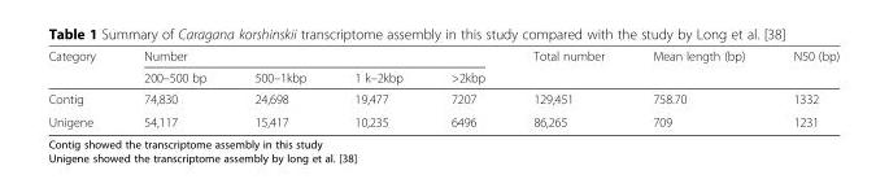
<table><thead><tr><td rowspan="2">Category</td><td colspan="4">Number</td><td rowspan="2">Total number</td><td rowspan="2">Mean length (bp)</td><td rowspan="2">N50 (bp)</td></tr><tr><td>200–500 bp</td><td>500–1kbp</td><td>1 k–2kbp</td><td>&gt;2kbp</td></tr></thead><tbody><tr><td>Contig</td><td>74,830</td><td>24,698</td><td>19,477</td><td>7207</td><td>129,451</td><td>758.70</td><td>1332</td></tr><tr><td>Unigene</td><td>54,117</td><td>15,417</td><td>10,235</td><td>6496</td><td>86,265</td><td>709</td><td>1231</td></tr></tbody></table>